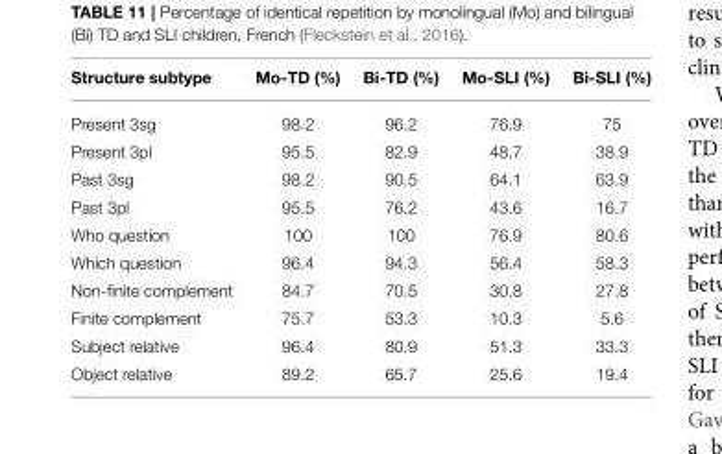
<table><thead><tr><td>Structure subtype</td><td>Mo-TD (%)</td><td>Bi-TD (%)</td><td>Mo-SLI (%)</td><td>Bi-SLI (%)</td></tr></thead><tbody><tr><td>Present 3sg</td><td>98.2</td><td>96.2</td><td>76.9</td><td>75</td></tr><tr><td>Present 3pl</td><td>95.5</td><td>82.9</td><td>48.7</td><td>38.9</td></tr><tr><td>Past 3sg</td><td>98.2</td><td>90.5</td><td>64.1</td><td>63.9</td></tr><tr><td>Past 3pl</td><td>95.5</td><td>76.2</td><td>43.6</td><td>16.7</td></tr><tr><td>Who question</td><td>100</td><td>100</td><td>76.9</td><td>80.6</td></tr><tr><td>Which question</td><td>96.4</td><td>94.3</td><td>56.4</td><td>58.3</td></tr><tr><td>Non-finite complement</td><td>84.7</td><td>70.5</td><td>30.8</td><td>27.8</td></tr><tr><td>Finite complement</td><td>75.7</td><td>53.3</td><td>10.3</td><td>5.6</td></tr><tr><td>Subject relative</td><td>96.4</td><td>80.9</td><td>51.3</td><td>33.3</td></tr><tr><td>Object relative</td><td>89.2</td><td>65.7</td><td>25.6</td><td>19.4</td></tr></tbody></table>